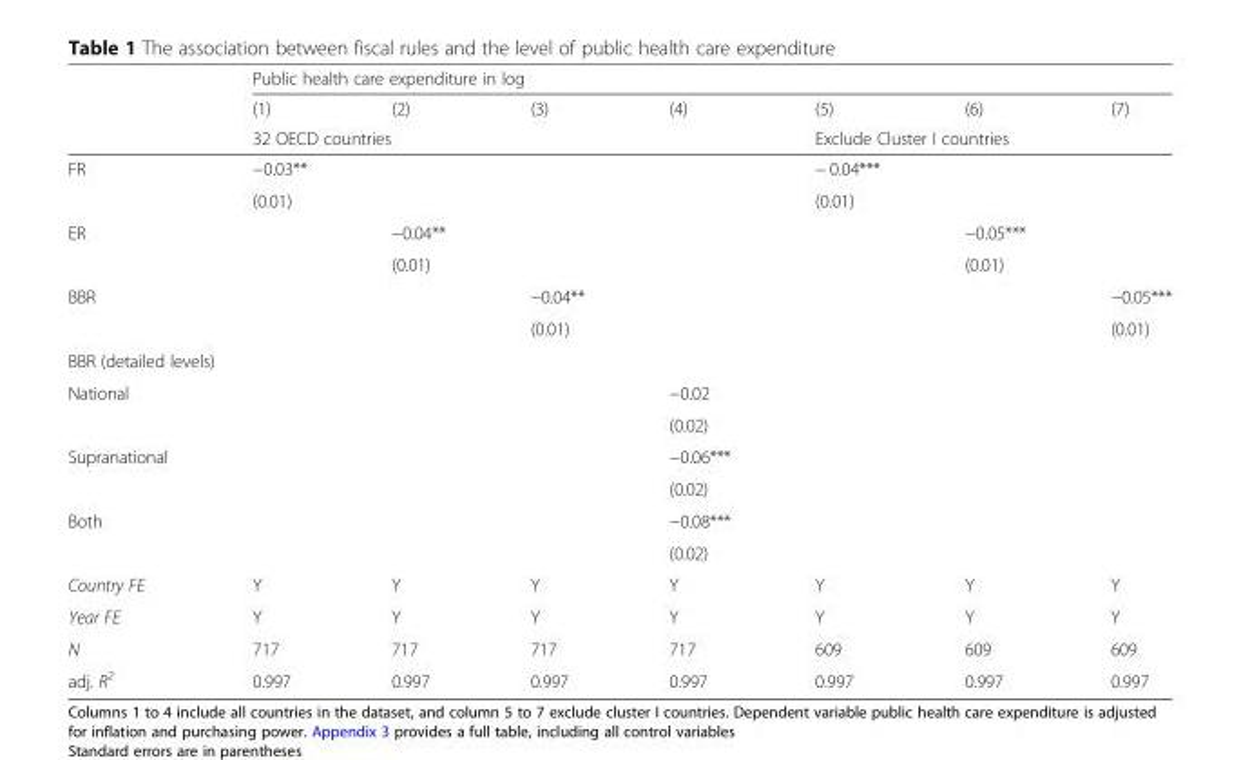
<table><thead><tr><td rowspan="3"></td><td colspan="7">Public health care expenditure in log</td></tr><tr><td>(1)</td><td>(2)</td><td>(3)</td><td>(4)</td><td>(5)</td><td>(6)</td><td>(7)</td></tr><tr><td colspan="4">32 OECD countries</td><td colspan="3">Exclude Cluster I countries</td></tr></thead><tbody><tr><td rowspan="2">FR</td><td>−0.03**</td><td></td><td></td><td></td><td>− 0.04***</td><td></td><td></td></tr><tr><td>(0.01)</td><td></td><td></td><td></td><td>(0.01)</td><td></td><td></td></tr><tr><td rowspan="2">ER</td><td></td><td>−0.04**</td><td></td><td></td><td></td><td>−0.05***</td><td></td></tr><tr><td></td><td>(0.01)</td><td></td><td></td><td></td><td>(0.01)</td><td></td></tr><tr><td rowspan="2">BBR</td><td></td><td></td><td>−0.04**</td><td></td><td></td><td></td><td>−0.05***</td></tr><tr><td></td><td></td><td>(0.01)</td><td></td><td></td><td></td><td>(0.01)</td></tr><tr><td colspan="8">BBR (detailed levels)</td></tr><tr><td rowspan="2">National</td><td></td><td></td><td></td><td>−0.02</td><td></td><td></td><td></td></tr><tr><td></td><td></td><td></td><td>(0.02)</td><td></td><td></td><td></td></tr><tr><td rowspan="2">Supranational</td><td></td><td></td><td></td><td>−0.06***</td><td></td><td></td><td></td></tr><tr><td></td><td></td><td></td><td>(0.02)</td><td></td><td></td><td></td></tr><tr><td rowspan="2">Both</td><td></td><td></td><td></td><td>−0.08***</td><td></td><td></td><td></td></tr><tr><td></td><td></td><td></td><td>(0.02)</td><td></td><td></td><td></td></tr><tr><td>Country FE</td><td>Y</td><td>Y</td><td>Y</td><td>Y</td><td>Y</td><td>Y</td><td>Y</td></tr><tr><td>Year FE</td><td>Y</td><td>Y</td><td>Y</td><td>Y</td><td>Y</td><td>Y</td><td>Y</td></tr><tr><td>N</td><td>717</td><td>717</td><td>717</td><td>717</td><td>609</td><td>609</td><td>609</td></tr><tr><td>adj. R<sup>2</sup></td><td>0.997</td><td>0.997</td><td>0.997</td><td>0.997</td><td>0.997</td><td>0.997</td><td>0.997</td></tr></tbody></table>